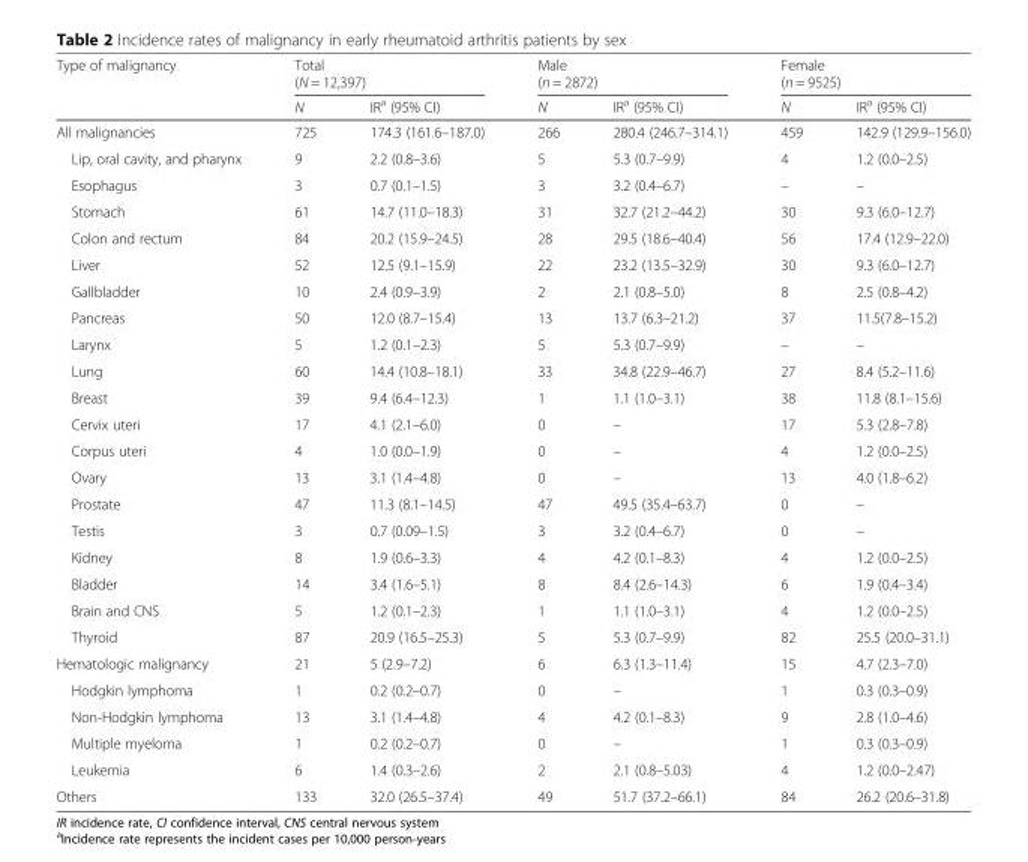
<table><thead><tr><td rowspan="2">Type of malignancy</td><td colspan="2">Total (N = 12,397)</td><td colspan="2">Male (n = 2872)</td><td colspan="2">Female (n = 9525)</td></tr><tr><td>N</td><td>IR<sup>a</sup> (95% CI)</td><td>N</td><td>IR<sup>a</sup> (95% CI)</td><td>N</td><td>IR<sup>a</sup> (95% CI)</td></tr></thead><tbody><tr><td>All malignancies</td><td>725</td><td>174.3 (161.6–187.0)</td><td>266</td><td>280.4 (246.7–314.1)</td><td>459</td><td>142.9 (129.9–156.0)</td></tr><tr><td>Lip, oral cavity, and pharynx</td><td>9</td><td>2.2 (0.8–3.6)</td><td>5</td><td>5.3 (0.7–9.9)</td><td>4</td><td>1.2 (0.0–2.5)</td></tr><tr><td>Esophagus</td><td>3</td><td>0.7 (0.1–1.5)</td><td>3</td><td>3.2 (0.4–6.7)</td><td>–</td><td>–</td></tr><tr><td>Stomach</td><td>61</td><td>14.7 (11.0–18.3)</td><td>31</td><td>32.7 (21.2–44.2)</td><td>30</td><td>9.3 (6.0–12.7)</td></tr><tr><td>Colon and rectum</td><td>84</td><td>20.2 (15.9–24.5)</td><td>28</td><td>29.5 (18.6–40.4)</td><td>56</td><td>17.4 (12.9–22.0)</td></tr><tr><td>Liver</td><td>52</td><td>12.5 (9.1–15.9)</td><td>22</td><td>23.2 (13.5–32.9)</td><td>30</td><td>9.3 (6.0–12.7)</td></tr><tr><td>Gallbladder</td><td>10</td><td>2.4 (0.9–3.9)</td><td>2</td><td>2.1 (0.8–5.0)</td><td>8</td><td>2.5 (0.8–4.2)</td></tr><tr><td>Pancreas</td><td>50</td><td>12.0 (8.7–15.4)</td><td>13</td><td>13.7 (6.3–21.2)</td><td>37</td><td>11.5(7.8–15.2)</td></tr><tr><td>Larynx</td><td>5</td><td>1.2 (0.1–2.3)</td><td>5</td><td>5.3 (0.7–9.9)</td><td>–</td><td>–</td></tr><tr><td>Lung</td><td>60</td><td>14.4 (10.8–18.1)</td><td>33</td><td>34.8 (22.9–46.7)</td><td>27</td><td>8.4 (5.2–11.6)</td></tr><tr><td>Breast</td><td>39</td><td>9.4 (6.4–12.3)</td><td>1</td><td>1.1 (1.0–3.1)</td><td>38</td><td>11.8 (8.1–15.6)</td></tr><tr><td>Cervix uteri</td><td>17</td><td>4.1 (2.1–6.0)</td><td>0</td><td>–</td><td>17</td><td>5.3 (2.8–7.8)</td></tr><tr><td>Corpus uteri</td><td>4</td><td>1.0 (0.0–1.9)</td><td>0</td><td>–</td><td>4</td><td>1.2 (0.0–2.5)</td></tr><tr><td>Ovary</td><td>13</td><td>3.1 (1.4–4.8)</td><td>0</td><td>–</td><td>13</td><td>4.0 (1.8–6.2)</td></tr><tr><td>Prostate</td><td>47</td><td>11.3 (8.1–14.5)</td><td>47</td><td>49.5 (35.4–63.7)</td><td>0</td><td>–</td></tr><tr><td>Testis</td><td>3</td><td>0.7 (0.09–1.5)</td><td>3</td><td>3.2 (0.4–6.7)</td><td>0</td><td>–</td></tr><tr><td>Kidney</td><td>8</td><td>1.9 (0.6–3.3)</td><td>4</td><td>4.2 (0.1–8.3)</td><td>4</td><td>1.2 (0.0–2.5)</td></tr><tr><td>Bladder</td><td>14</td><td>3.4 (1.6–5.1)</td><td>8</td><td>8.4 (2.6–14.3)</td><td>6</td><td>1.9 (0.4–3.4)</td></tr><tr><td>Brain and CNS</td><td>5</td><td>1.2 (0.1–2.3)</td><td>1</td><td>1.1 (1.0–3.1)</td><td>4</td><td>1.2 (0.0–2.5)</td></tr><tr><td>Thyroid</td><td>87</td><td>20.9 (16.5–25.3)</td><td>5</td><td>5.3 (0.7–9.9)</td><td>82</td><td>25.5 (20.0–31.1)</td></tr><tr><td>Hematologic malignancy</td><td>21</td><td>5 (2.9–7.2)</td><td>6</td><td>6.3 (1.3–11.4)</td><td>15</td><td>4.7 (2.3–7.0)</td></tr><tr><td>Hodgkin lymphoma</td><td>1</td><td>0.2 (0.2–0.7)</td><td>0</td><td>–</td><td>1</td><td>0.3 (0.3–0.9)</td></tr><tr><td>Non-Hodgkin lymphoma</td><td>13</td><td>3.1 (1.4–4.8)</td><td>4</td><td>4.2 (0.1–8.3)</td><td>9</td><td>2.8 (1.0–4.6)</td></tr><tr><td>Multiple myeloma</td><td>1</td><td>0.2 (0.2–0.7)</td><td>0</td><td>–</td><td>1</td><td>0.3 (0.3–0.9)</td></tr><tr><td>Leukemia</td><td>6</td><td>1.4 (0.3–2.6)</td><td>2</td><td>2.1 (0.8–5.03)</td><td>4</td><td>1.2 (0.0–2.47)</td></tr><tr><td>Others</td><td>133</td><td>32.0 (26.5–37.4)</td><td>49</td><td>51.7 (37.2–66.1)</td><td>84</td><td>26.2 (20.6–31.8)</td></tr></tbody></table>